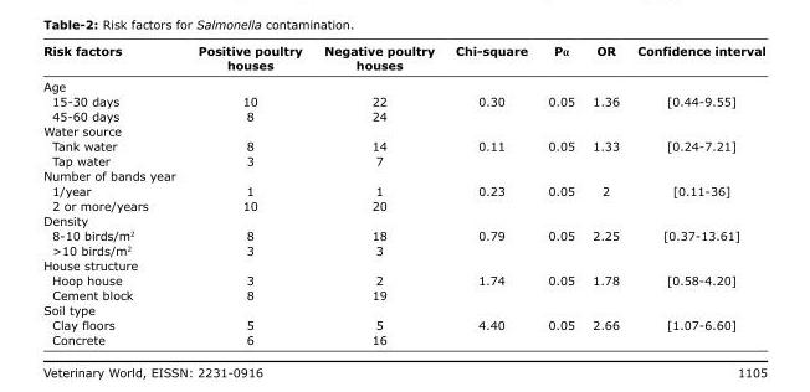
<table><thead><tr><td>Risk factors</td><td>Positive poultry houses</td><td>Negative poultry houses</td><td>Chi-square</td><td>Pα</td><td>OR</td><td>Confidence interval</td></tr></thead><tbody><tr><td colspan="7">Age</td></tr><tr><td>15-30 days</td><td>10</td><td>22</td><td>0.30</td><td>0.05</td><td>1.36</td><td>[0.44-9.55]</td></tr><tr><td>45-60 days</td><td>8</td><td>24</td><td></td><td></td><td></td><td></td></tr><tr><td colspan="7">Water source</td></tr><tr><td>Tank water</td><td>8</td><td>14</td><td>0.11</td><td>0.05</td><td>1.33</td><td>[0.24-7.21]</td></tr><tr><td>Tap water</td><td>3</td><td>7</td><td></td><td></td><td></td><td></td></tr><tr><td colspan="7">Number of bands year</td></tr><tr><td>1/year</td><td>1</td><td>1</td><td>0.23</td><td>0.05</td><td>2</td><td>[0.11-36]</td></tr><tr><td>2 or more/years</td><td>10</td><td>20</td><td></td><td></td><td></td><td></td></tr><tr><td colspan="7">Density</td></tr><tr><td>8-10 birds/m2</td><td>8</td><td>18</td><td>0.79</td><td>0.05</td><td>2.25</td><td>[0.37-13.61]</td></tr><tr><td>&gt;10 birds/m<sup>2</sup></td><td>3</td><td>3</td><td></td><td></td><td></td><td></td></tr><tr><td colspan="7">House structure</td></tr><tr><td>Hoop house</td><td>3</td><td>2</td><td>1.74</td><td>0.05</td><td>1.78</td><td>[0.58-4.20]</td></tr><tr><td>Cement block</td><td>8</td><td>19</td><td></td><td></td><td></td><td></td></tr><tr><td colspan="7">Soil type</td></tr><tr><td>Clay floors</td><td>5</td><td>5</td><td>4.40</td><td>0.05</td><td>2.66</td><td>[1.07-6.60]</td></tr><tr><td>Concrete</td><td>6</td><td>16</td><td></td><td></td><td></td><td></td></tr></tbody></table>